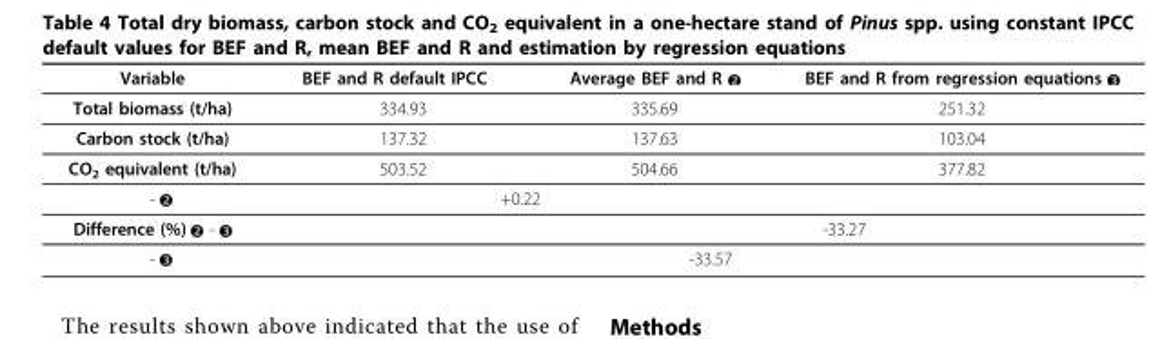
<table><thead><tr><td>Variable</td><td>BEF and R default IPCC</td><td>Average BEF and R</td><td>BEF and R from regression equations</td></tr></thead><tbody><tr><td>Total biomass (t/ha)</td><td>334.93</td><td>335.69</td><td>251.32</td></tr><tr><td>Carbon stock (t/ha)</td><td>137.32</td><td>137.63</td><td>103.04</td></tr><tr><td>CO<sub>2</sub> equivalent (t/ha)</td><td>503.52</td><td>504.66</td><td>377.82</td></tr><tr><td>-</td><td colspan="2">+0.22</td><td></td></tr><tr><td>Difference (%) -</td><td></td><td colspan="2">-33.27</td></tr><tr><td>-</td><td colspan="3">-33.57</td></tr></tbody></table>